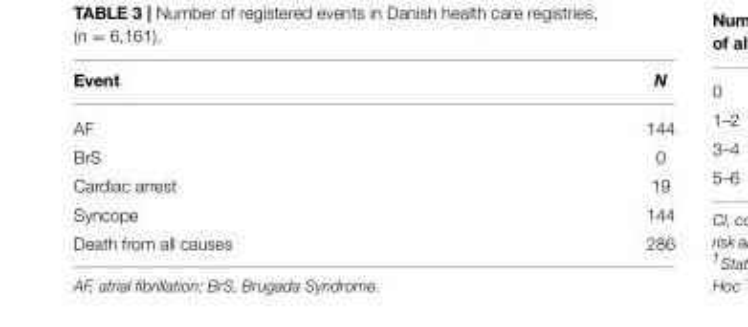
<table><thead><tr><td>Event</td><td>N</td></tr></thead><tbody><tr><td>AF</td><td>144</td></tr><tr><td>BrS</td><td>0</td></tr><tr><td>Cardiac arrest</td><td>19</td></tr><tr><td>Syncope</td><td>144</td></tr><tr><td>Death from all causes</td><td>286</td></tr></tbody></table>